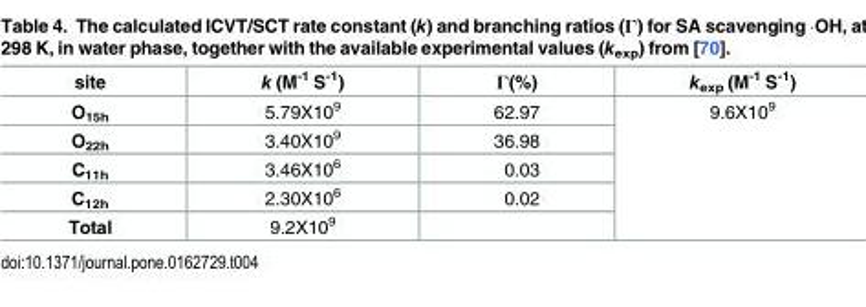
<table><thead><tr><td>site</td><td>k (M<sup>-1</sup> S<sup>-1</sup>)</td><td>Γ(%)</td><td>k<sub>exp</sub> (M<sup>-1</sup> S<sup>-1</sup>)</td></tr></thead><tbody><tr><td>O<sub>15h</sub></td><td>5.79X10<sup>9</sup></td><td>62.97</td><td rowspan="5">9.6X10<sup>9</sup></td></tr><tr><td>O<sub>22h</sub></td><td>3.40X10<sup>9</sup></td><td>36.98</td></tr><tr><td>C<sub>11h</sub></td><td>3.46X10<sup>6</sup></td><td>0.03</td></tr><tr><td>C<sub>12h</sub></td><td>2.30X10<sup>6</sup></td><td>0.02</td></tr><tr><td>Total</td><td>9.2X10<sup>9</sup></td><td></td></tr></tbody></table>